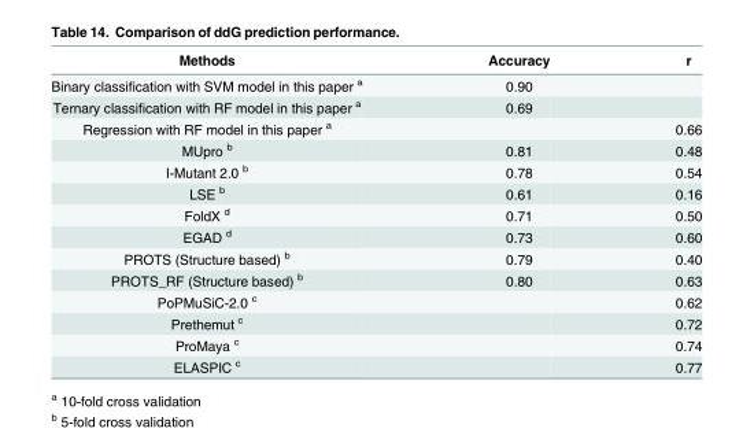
<table><thead><tr><td>Methods</td><td>Accuracy</td><td>r</td></tr></thead><tbody><tr><td>Binary classification with SVM model in this paper <sup>a</sup></td><td>0.90</td><td></td></tr><tr><td>Ternary classification with RF model in this paper <sup>a</sup></td><td>0.69</td><td></td></tr><tr><td>Regression with RF model in this paper <sup>a</sup></td><td></td><td>0.66</td></tr><tr><td>MUpro <sup>b</sup></td><td>0.81</td><td>0.48</td></tr><tr><td>I-Mutant 2.0 <sup>b</sup></td><td>0.78</td><td>0.54</td></tr><tr><td>LSE <sup>b</sup></td><td>0.61</td><td>0.16</td></tr><tr><td>FoldX <sup>d</sup></td><td>0.71</td><td>0.50</td></tr><tr><td>EGAD <sup>d</sup></td><td>0.73</td><td>0.60</td></tr><tr><td>PROTS (Structure based) <sup>b</sup></td><td>0.79</td><td>0.40</td></tr><tr><td>PROTS_RF (Structure based) <sup>b</sup></td><td>0.80</td><td>0.63</td></tr><tr><td>PoPMuSiC-2.0 <sup>c</sup></td><td></td><td>0.62</td></tr><tr><td>Prethemut <sup>c</sup></td><td></td><td>0.72</td></tr><tr><td>ProMaya <sup>c</sup></td><td></td><td>0.74</td></tr><tr><td>ELASPIC <sup>c</sup></td><td></td><td>0.77</td></tr></tbody></table>